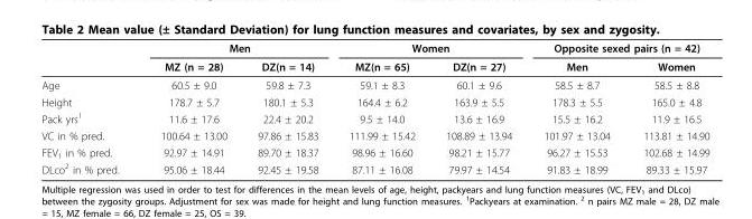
<table><thead><tr><td rowspan="2"></td><td colspan="2">Men</td><td colspan="2">Women</td><td colspan="2">Opposite sexed pairs (n = 42)</td></tr><tr><td>MZ (n = 28)</td><td>DZ(n = 14)</td><td>MZ(n = 65)</td><td>DZ(n = 27)</td><td>Men</td><td>Women</td></tr></thead><tbody><tr><td>Age</td><td>60.5 ± 9.0</td><td>59.8 ± 7.3</td><td>59.1 ± 8.3</td><td>60.1 ± 9.6</td><td>58.5 ± 8.7</td><td>58.5 ± 8.8</td></tr><tr><td>Height</td><td>178.7 ± 5.7</td><td>180.1 ± 5.3</td><td>164.4 ± 6.2</td><td>163.9 ± 5.5</td><td>178.3 ± 5.5</td><td>165.0 ± 4.8</td></tr><tr><td>Pack yrs<sup>1</sup></td><td>11.6 ± 17.6</td><td>22.4 ± 20.2</td><td>9.5 ± 14.0</td><td>13.6 ± 16.9</td><td>15.5 ± 16.2</td><td>11.9 ± 16.5</td></tr><tr><td>VC in % pred.</td><td>100.64 ± 13.00</td><td>97.86 ± 15.83</td><td>111.99 ± 15.42</td><td>108.89 ± 13.94</td><td>101.97 ± 13.04</td><td>113.81 ± 14.90</td></tr><tr><td>FEV<sub>1</sub> in % pred.</td><td>92.97 ± 14.91</td><td>89.70 ± 18.37</td><td>98.96 ± 16.60</td><td>98.21 ± 15.77</td><td>96.27 ± 15.53</td><td>102.68 ± 14.99</td></tr><tr><td>DLco<sup>2</sup> in % pred.</td><td>95.06 ± 18.44</td><td>92.45 ± 19.58</td><td>87.11 ± 16.08</td><td>79.97 ± 14.54</td><td>91.83 ± 18.99</td><td>89.33 ± 15.97</td></tr></tbody></table>